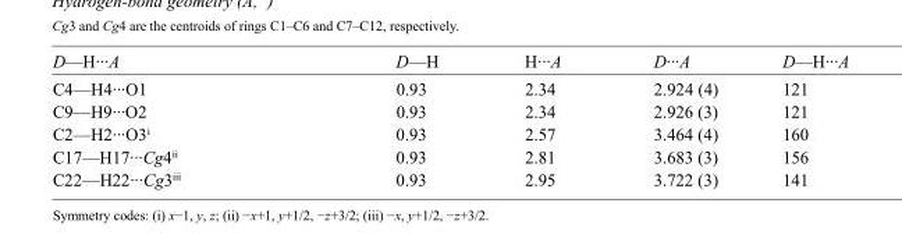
<table><tbody><tr><td>D—H···A</td><td>D—H</td><td>H···A</td><td>D···A</td><td>D—H···A</td></tr><tr><td>C4—H4···O1</td><td>0.93</td><td>2.34</td><td>2.924 (4)</td><td>121</td></tr><tr><td>C9—H9···O2</td><td>0.93</td><td>2.34</td><td>2.926 (3)</td><td>121</td></tr><tr><td>C2—H2···O3<sup>i</sup></td><td>0.93</td><td>2.57</td><td>3.464 (4)</td><td>160</td></tr><tr><td>C17—H17···Cg4<sup>ii</sup></td><td>0.93</td><td>2.81</td><td>3.683 (3)</td><td>156</td></tr><tr><td>C22—H22···Cg3<sup>iii</sup></td><td>0.93</td><td>2.95</td><td>3.722 (3)</td><td>141</td></tr></tbody></table>